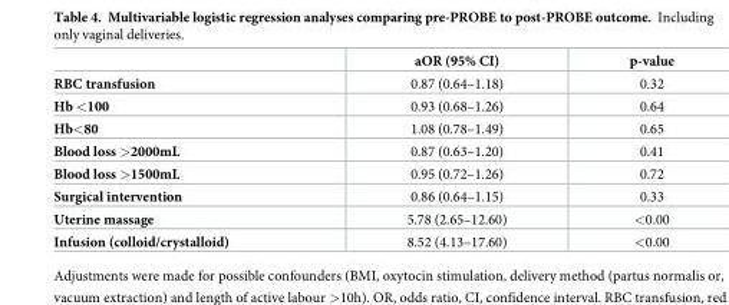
<table><thead><tr><td></td><td>aOR (95% CI)</td><td>p-value</td></tr></thead><tbody><tr><td>RBC transfusion</td><td>0.87 (0.64–1.18)</td><td>0.32</td></tr><tr><td>Hb &lt;100</td><td>0.93 (0.68–1.26)</td><td>0.64</td></tr><tr><td>Hb&lt;80</td><td>1.08 (0.78–1.49)</td><td>0.65</td></tr><tr><td>Blood loss &gt;2000mL</td><td>0.87 (0.63–1.20)</td><td>0.41</td></tr><tr><td>Blood loss &gt;1500mL</td><td>0.95 (0.72–1.26)</td><td>0.72</td></tr><tr><td>Surgical intervention</td><td>0.86 (0.64–1.15)</td><td>0.33</td></tr><tr><td>Uterine massage</td><td>5.78 (2.65–12.60)</td><td>&lt;0.00</td></tr><tr><td>Infusion (colloid/crystalloid)</td><td>8.52 (4.13–17.60)</td><td>&lt;0.00</td></tr></tbody></table>